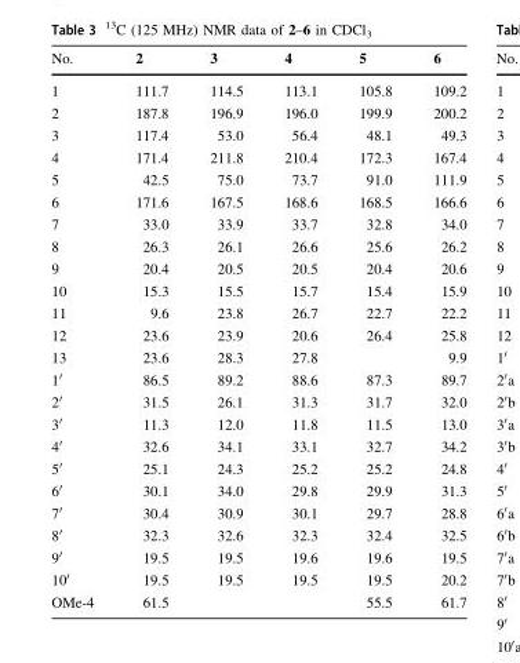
<table><thead><tr><td>No.</td><td>2</td><td>3</td><td>4</td><td>5</td><td>6</td></tr></thead><tbody><tr><td>1</td><td>111.7</td><td>114.5</td><td>113.1</td><td>105.8</td><td>109.2</td></tr><tr><td>2</td><td>187.8</td><td>196.9</td><td>196.0</td><td>199.9</td><td>200.2</td></tr><tr><td>3</td><td>117.4</td><td>53.0</td><td>56.4</td><td>48.1</td><td>49.3</td></tr><tr><td>4</td><td>171.4</td><td>211.8</td><td>210.4</td><td>172.3</td><td>167.4</td></tr><tr><td>5</td><td>42.5</td><td>75.0</td><td>73.7</td><td>91.0</td><td>111.9</td></tr><tr><td>6</td><td>171.6</td><td>167.5</td><td>168.6</td><td>168.5</td><td>166.6</td></tr><tr><td>7</td><td>33.0</td><td>33.9</td><td>33.7</td><td>32.8</td><td>34.0</td></tr><tr><td>8</td><td>26.3</td><td>26.1</td><td>26.6</td><td>25.6</td><td>26.2</td></tr><tr><td>9</td><td>20.4</td><td>20.5</td><td>20.5</td><td>20.4</td><td>20.6</td></tr><tr><td>10</td><td>15.3</td><td>15.5</td><td>15.7</td><td>15.4</td><td>15.9</td></tr><tr><td>11</td><td>9.6</td><td>23.8</td><td>26.7</td><td>22.7</td><td>22.2</td></tr><tr><td>12</td><td>23.6</td><td>23.9</td><td>20.6</td><td>26.4</td><td>25.8</td></tr><tr><td>13</td><td>23.6</td><td>28.3</td><td>27.8</td><td></td><td>9.9</td></tr><tr><td>1′</td><td>86.5</td><td>89.2</td><td>88.6</td><td>87.3</td><td>89.7</td></tr><tr><td>2′</td><td>31.5</td><td>26.1</td><td>31.3</td><td>31.7</td><td>32.0</td></tr><tr><td>3′</td><td>11.3</td><td>12.0</td><td>11.8</td><td>11.5</td><td>13.0</td></tr><tr><td>4′</td><td>32.6</td><td>34.1</td><td>33.1</td><td>32.7</td><td>34.2</td></tr><tr><td>5′</td><td>25.1</td><td>24.3</td><td>25.2</td><td>25.2</td><td>24.8</td></tr><tr><td>6′</td><td>30.1</td><td>34.0</td><td>29.8</td><td>29.9</td><td>31.3</td></tr><tr><td>7′</td><td>30.4</td><td>30.9</td><td>30.1</td><td>29.7</td><td>28.8</td></tr><tr><td>8′</td><td>32.3</td><td>32.6</td><td>32.3</td><td>32.4</td><td>32.5</td></tr><tr><td>9′</td><td>19.5</td><td>19.5</td><td>19.6</td><td>19.6</td><td>19.5</td></tr><tr><td>10′</td><td>19.5</td><td>19.5</td><td>19.5</td><td>19.5</td><td>20.2</td></tr><tr><td>OMe-4</td><td>61.5</td><td></td><td></td><td>55.5</td><td>61.7</td></tr></tbody></table>